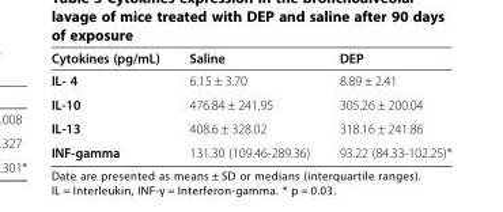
<table><thead><tr><td>Cytokines (pg/mL)</td><td>Saline</td><td>DEP</td></tr></thead><tbody><tr><td>IL- 4</td><td>6.15 ± 3.70</td><td>8.89 ± 2.41</td></tr><tr><td>IL-10</td><td>476.84 ± 241.95</td><td>305.26 ± 200.04</td></tr><tr><td>IL-13</td><td>408.6 ± 328.02</td><td>318.16 ± 241.86</td></tr><tr><td>INF-gamma</td><td>131.30 (109.46-289.36)</td><td>93.22 (84.33-102.25)*</td></tr></tbody></table>